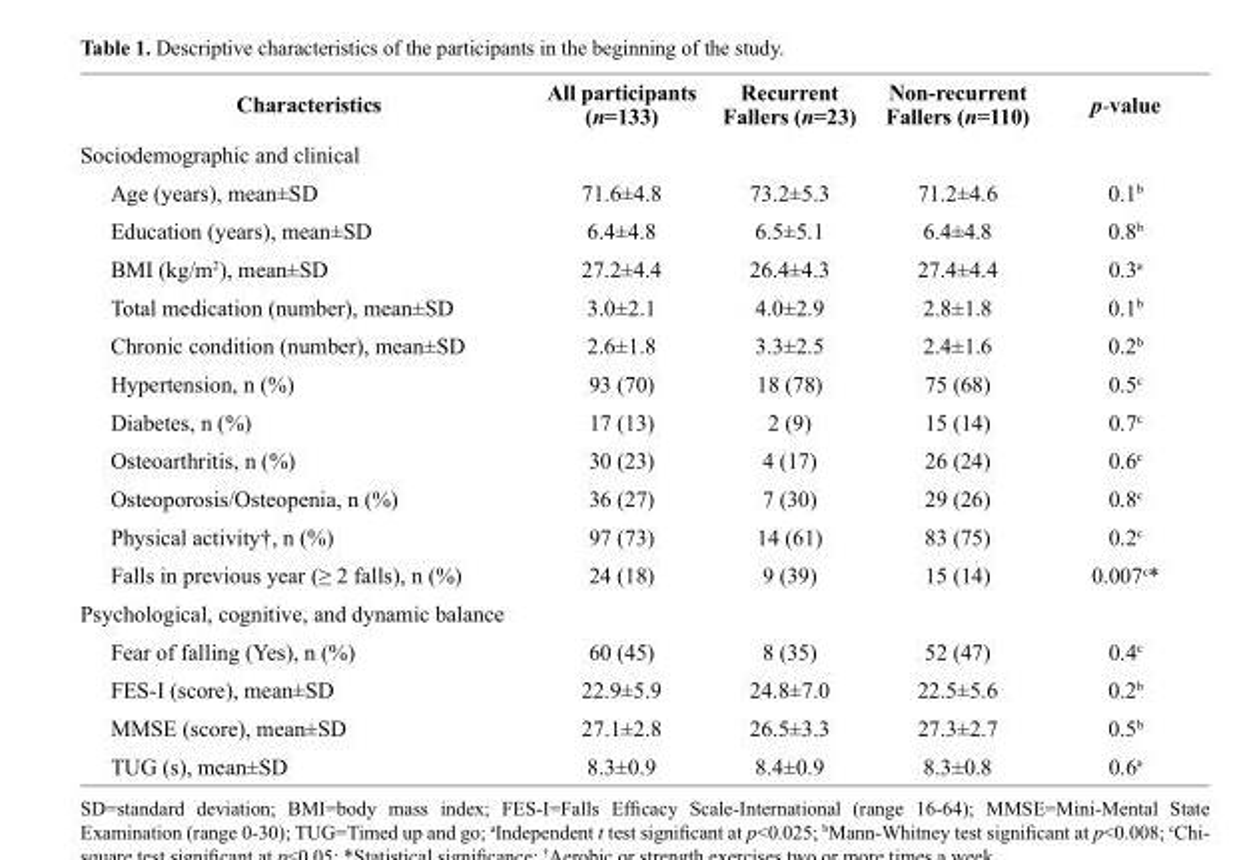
<table><thead><tr><td>Characteristics</td><td>All participants (n=133)</td><td>Recurrent Fallers (n=23)</td><td>Non-recurrent Fallers (n=110)</td><td>p-value</td></tr></thead><tbody><tr><td colspan="5">Sociodemographic and clinical</td></tr><tr><td>Age (years), mean±SD</td><td>71.6±4.8</td><td>73.2±5.3</td><td>71.2±4.6</td><td>0.1<sup>b</sup></td></tr><tr><td>Education (years), mean±SD</td><td>6.4±4.8</td><td>6.5±5.1</td><td>6.4±4.8</td><td>0.8<sup>b</sup></td></tr><tr><td>BMI (kg/m<sup>2</sup>), mean±SD</td><td>27.2±4.4</td><td>26.4±4.3</td><td>27.4±4.4</td><td>0.3<sup>a</sup></td></tr><tr><td>Total medication (number), mean±SD</td><td>3.0±2.1</td><td>4.0±2.9</td><td>2.8±1.8</td><td>0.1<sup>b</sup></td></tr><tr><td>Chronic condition (number), mean±SD</td><td>2.6±1.8</td><td>3.3±2.5</td><td>2.4±1.6</td><td>0.2<sup>b</sup></td></tr><tr><td>Hypertension, n (%)</td><td>93 (70)</td><td>18 (78)</td><td>75 (68)</td><td>0.5<sup>c</sup></td></tr><tr><td>Diabetes, n (%)</td><td>17 (13)</td><td>2 (9)</td><td>15 (14)</td><td>0.7<sup>c</sup></td></tr><tr><td>Osteoarthritis, n (%)</td><td>30 (23)</td><td>4 (17)</td><td>26 (24)</td><td>0.6<sup>c</sup></td></tr><tr><td>Osteoporosis/Osteopenia, n (%)</td><td>36 (27)</td><td>7 (30)</td><td>29 (26)</td><td>0.8<sup>c</sup></td></tr><tr><td>Physical activity<sup>†</sup>, n (%)</td><td>97 (73)</td><td>14 (61)</td><td>83 (75)</td><td>0.2<sup>c</sup></td></tr><tr><td>Falls in previous year (≥ 2 falls), n (%)</td><td>24 (18)</td><td>9 (39)</td><td>15 (14)</td><td>0.007<sup>c*</sup></td></tr><tr><td colspan="5">Psychological, cognitive, and dynamic balance</td></tr><tr><td>Fear of falling (Yes), n (%)</td><td>60 (45)</td><td>8 (35)</td><td>52 (47)</td><td>0.4<sup>c</sup></td></tr><tr><td>FES-I (score), mean±SD</td><td>22.9±5.9</td><td>24.8±7.0</td><td>22.5±5.6</td><td>0.2<sup>b</sup></td></tr><tr><td>MMSE (score), mean±SD</td><td>27.1±2.8</td><td>26.5±3.3</td><td>27.3±2.7</td><td>0.5<sup>b</sup></td></tr><tr><td>TUG (s), mean±SD</td><td>8.3±0.9</td><td>8.4±0.9</td><td>8.3±0.8</td><td>0.6<sup>a</sup></td></tr></tbody></table>